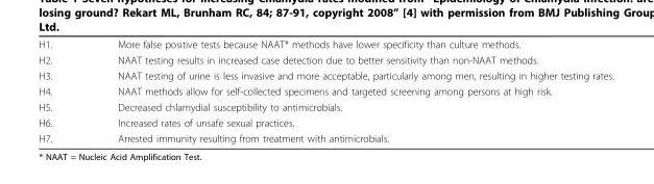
<table><tbody><tr><td>H1.</td><td>More false positive tests because NAAT* methods have lower specificity than culture methods.</td></tr><tr><td>H2.</td><td>NAAT testing results in increased case detection due to better sensitivity than non-NAAT methods.</td></tr><tr><td>H3.</td><td>NAAT testing of urine is less invasive and more acceptable, particularly among men, resulting in higher testing rates.</td></tr><tr><td>H4.</td><td>NAAT methods allow for self-collected specimens and targeted screening among persons at high risk.</td></tr><tr><td>H5.</td><td>Decreased chlamydial susceptibility to antimicrobials.</td></tr><tr><td>H6.</td><td>Increased rates of unsafe sexual practices.</td></tr><tr><td>H7.</td><td>Arrested immunity resulting from treatment with antimicrobials.</td></tr></tbody></table>